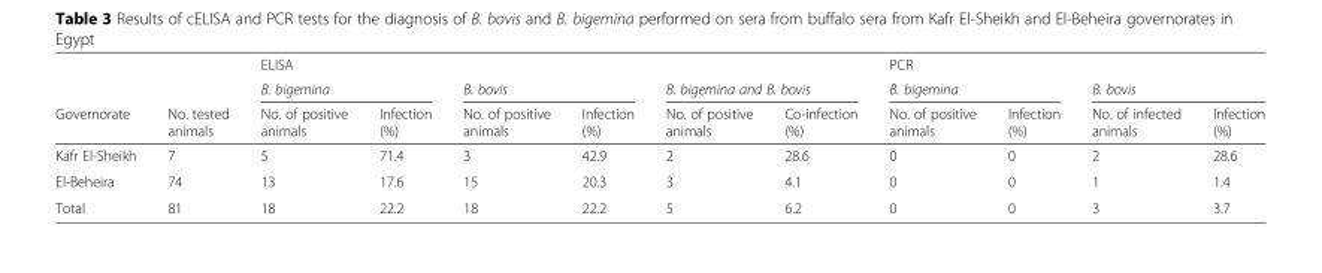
<table><thead><tr><td rowspan="3">Governorate</td><td rowspan="3">No. tested animals</td><td colspan="6">ELISA</td><td colspan="4">PCR</td></tr><tr><td colspan="2">B. bigemina</td><td colspan="2">B. bovis</td><td colspan="2">B. bigemina and B. bovis</td><td colspan="2">B. bigemina</td><td colspan="2">B. bovis</td></tr><tr><td>No. of positive animals</td><td>Infection (%)</td><td>No. of positive animals</td><td>Infection (%)</td><td>No. of positive animals</td><td>Co-infection (%)</td><td>No. of positive animals</td><td>Infection (%)</td><td>No. of infected animals</td><td>Infection (%)</td></tr></thead><tbody><tr><td>Kafr El-Sheikh</td><td>7</td><td>5</td><td>71.4</td><td>3</td><td>42.9</td><td>2</td><td>28.6</td><td>0</td><td>0</td><td>2</td><td>28.6</td></tr><tr><td>El-Beheira</td><td>74</td><td>13</td><td>17.6</td><td>15</td><td>20.3</td><td>3</td><td>4.1</td><td>0</td><td>0</td><td>1</td><td>1.4</td></tr><tr><td>Total</td><td>81</td><td>18</td><td>22.2</td><td>18</td><td>22.2</td><td>5</td><td>6.2</td><td>0</td><td>0</td><td>3</td><td>3.7</td></tr></tbody></table>